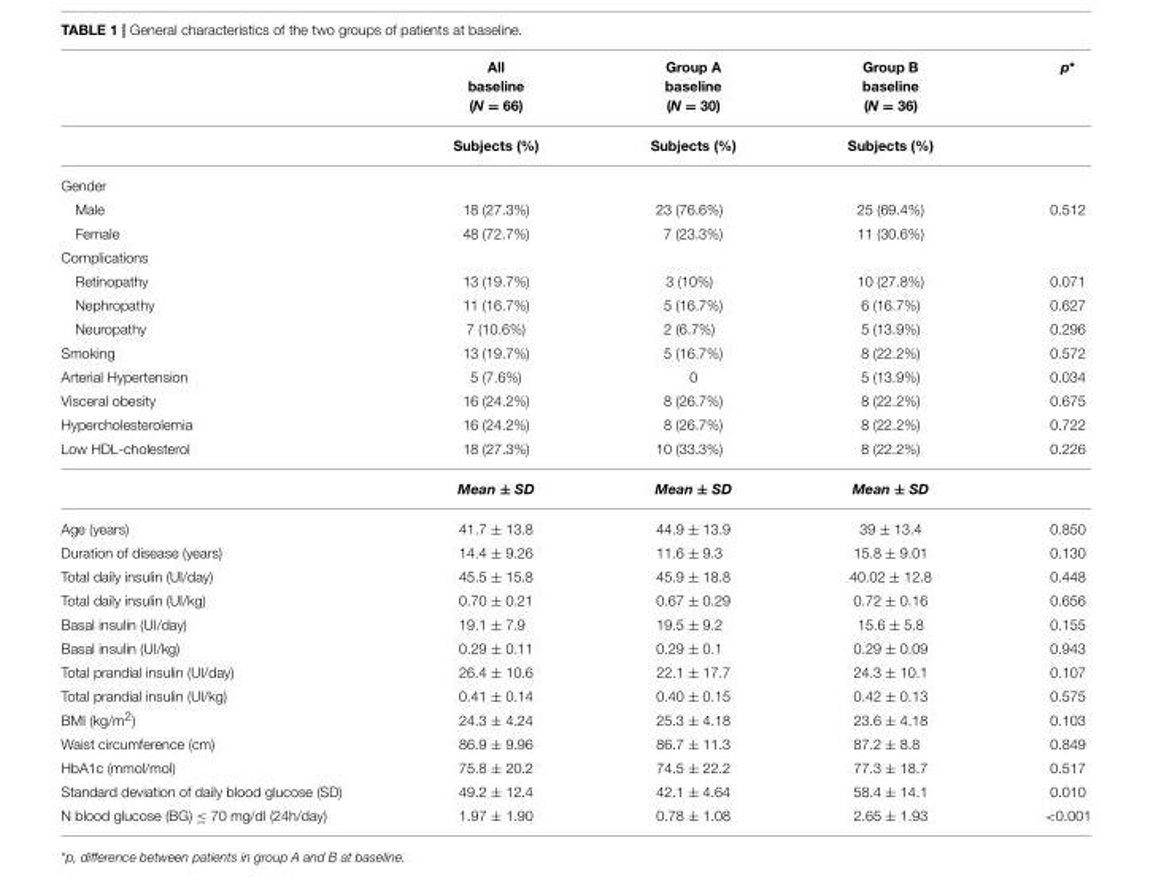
<table><thead><tr><td></td><td>All baseline (N = 66)</td><td>Group A baseline (N = 30)</td><td>Group B baseline (N = 36)</td><td>p*</td></tr></thead><tbody><tr><td></td><td>Subjects (%)</td><td>Subjects (%)</td><td>Subjects (%)</td><td></td></tr><tr><td colspan="5">Gender</td></tr><tr><td>Male</td><td>18 (27.3%)</td><td>23 (76.6%)</td><td>25 (69.4%)</td><td>0.512</td></tr><tr><td>Female</td><td>48 (72.7%)</td><td>7 (23.3%)</td><td>11 (30.6%)</td><td></td></tr><tr><td colspan="5">Complications</td></tr><tr><td>Retinopathy</td><td>13 (19.7%)</td><td>3 (10%)</td><td>10 (27.8%)</td><td>0.071</td></tr><tr><td>Nephropathy</td><td>11 (16.7%)</td><td>5 (16.7%)</td><td>6 (16.7%)</td><td>0.627</td></tr><tr><td>Neuropathy</td><td>7 (10.6%)</td><td>2 (6.7%)</td><td>5 (13.9%)</td><td>0.296</td></tr><tr><td>Smoking</td><td>13 (19.7%)</td><td>5 (16.7%)</td><td>8 (22.2%)</td><td>0.572</td></tr><tr><td>Arterial Hypertension</td><td>5 (7.6%)</td><td>0</td><td>5 (13.9%)</td><td>0.034</td></tr><tr><td>Visceral obesity</td><td>16 (24.2%)</td><td>8 (26.7%)</td><td>8 (22.2%)</td><td>0.675</td></tr><tr><td>Hypercholesterolemia</td><td>16 (24.2%)</td><td>8 (26.7%)</td><td>8 (22.2%)</td><td>0.722</td></tr><tr><td rowspan="2">Low HDL-cholesterol</td><td>18 (27.3%)</td><td>10 (33.3%)</td><td>8 (22.2%)</td><td>0.226</td></tr><tr><td>Mean ± SD</td><td>Mean ± SD</td><td>Mean ± SD</td><td></td></tr><tr><td>Age (years)</td><td>41.7 ± 13.8</td><td>44.9 ± 13.9</td><td>39 ± 13.4</td><td>0.850</td></tr><tr><td>Duration of disease (years)</td><td>14.4 ± 9.26</td><td>11.6 ± 9.3</td><td>15.8 ± 9.01</td><td>0.130</td></tr><tr><td>Total daily insulin (UI/day)</td><td>45.5 ± 15.8</td><td>45.9 ± 18.8</td><td>40.02 ± 12.8</td><td>0.448</td></tr><tr><td>Total daily insulin (UI/kg)</td><td>0.70 ± 0.21</td><td>0.67 ± 0.29</td><td>0.72 ± 0.16</td><td>0.656</td></tr><tr><td>Basal insulin (UI/day)</td><td>19.1 ± 7.9</td><td>19.5 ± 9.2</td><td>15.6 ± 5.8</td><td>0.155</td></tr><tr><td>Basal insulin (UI/kg)</td><td>0.29 ± 0.11</td><td>0.29 ± 0.1</td><td>0.29 ± 0.09</td><td>0.943</td></tr><tr><td>Total prandial insulin (UI/day)</td><td>26.4 ± 10.6</td><td>22.1 ± 17.7</td><td>24.3 ± 10.1</td><td>0.107</td></tr><tr><td>Total prandial insulin (UI/kg)</td><td>0.41 ± 0.14</td><td>0.40 ± 0.15</td><td>0.42 ± 0.13</td><td>0.575</td></tr><tr><td>BMI (kg/m<sup>2</sup>)</td><td>24.3 ± 4.24</td><td>25.3 ± 4.18</td><td>23.6 ± 4.18</td><td>0.103</td></tr><tr><td>Waist circumference (cm)</td><td>86.9 ± 9.96</td><td>86.7 ± 11.3</td><td>87.2 ± 8.8</td><td>0.849</td></tr><tr><td>HbA1c (mmol/mol)</td><td>75.8 ± 20.2</td><td>74.5 ± 22.2</td><td>77.3 ± 18.7</td><td>0.517</td></tr><tr><td>Standard deviation of daily blood glucose (SD)</td><td>49.2 ± 12.4</td><td>42.1 ± 4.64</td><td>58.4 ± 14.1</td><td>0.010</td></tr><tr><td>N blood glucose (BG) ≤ 70 mg/dl (24h/day)</td><td>1.97 ± 1.90</td><td>0.78 ± 1.08</td><td>2.65 ± 1.93</td><td>&lt;0.001</td></tr></tbody></table>